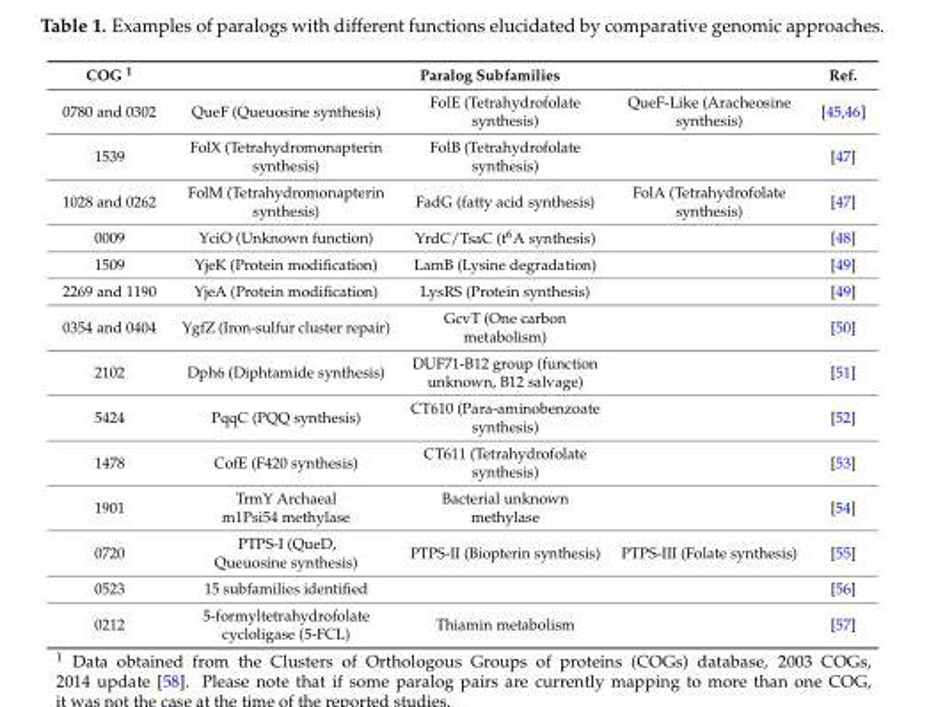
<table><thead><tr><td rowspan="2">COG <sup>1</sup> 0780 and 0302</td><td colspan="3">Paralog Subfamilies</td><td rowspan="2">Ref. [45,46]</td></tr><tr><td>QueF (Queuosine synthesis)</td><td>FolE (Tetrahydrofolate synthesis)</td><td>QueF-Like (Aracheosine synthesis)</td></tr></thead><tbody><tr><td>1539</td><td>FolX (Tetrahydromonapterin synthesis)</td><td>FolB (Tetrahydrofolate synthesis)</td><td></td><td>[47]</td></tr><tr><td>1028 and 0262</td><td>FolM (Tetrahydromonapterin synthesis)</td><td>FadG (fatty acid synthesis)</td><td>FolA (Tetrahydrofolate synthesis)</td><td>[47]</td></tr><tr><td>0009</td><td>YciO (Unknown function)</td><td>YrdC/TsaC (t<sup>6</sup>A synthesis)</td><td></td><td>[48]</td></tr><tr><td>1509</td><td>YjeK (Protein modification)</td><td>LamB (Lysine degradation)</td><td></td><td>[49]</td></tr><tr><td>2269 and 1190</td><td>YjeA (Protein modification)</td><td>LysRS (Protein synthesis)</td><td></td><td>[49]</td></tr><tr><td>0354 and 0404</td><td>YgfZ (Iron-sulfur cluster repair)</td><td>GcvT (One carbon metabolism)</td><td></td><td>[50]</td></tr><tr><td>2102</td><td>Dph6 (Diphtamide synthesis)</td><td>DUF71-B12 group (function unknown, B12 salvage)</td><td></td><td>[51]</td></tr><tr><td>5424</td><td>PqqC (PQQ synthesis)</td><td>CT610 (Para-aminobenzoate synthesis)</td><td></td><td>[52]</td></tr><tr><td>1478</td><td>CofE (F420 synthesis)</td><td>CT611 (Tetrahydrofolate synthesis)</td><td></td><td>[53]</td></tr><tr><td>1901</td><td>TrmY Archaeal m1Psi54 methylase</td><td>Bacterial unknown methylase</td><td></td><td>[54]</td></tr><tr><td>0720</td><td>PTPS-I (QueD, Queuosine synthesis)</td><td>PTPS-II (Biopterin synthesis)</td><td>PTPS-III (Folate synthesis)</td><td>[55]</td></tr><tr><td>0523</td><td>15 subfamilies identified</td><td></td><td></td><td>[56]</td></tr><tr><td>0212</td><td>5-formyltetrahydrofolate cycloligase (5-FCL)</td><td>Thiamin metabolism</td><td></td><td>[57]</td></tr></tbody></table>